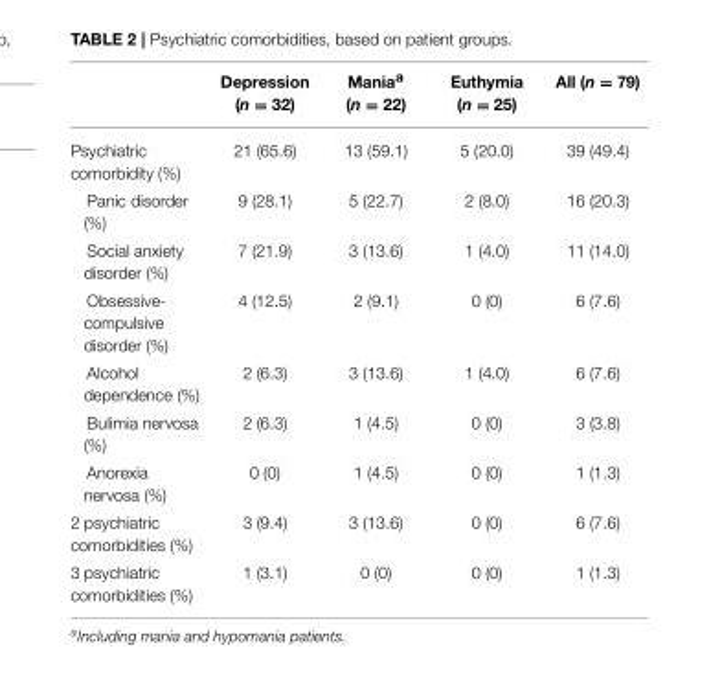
<table><thead><tr><td></td><td>Depression (n = 32)</td><td>Mania<sup>a</sup> (n = 22)</td><td>Euthymia (n = 25)</td><td>All (n = 79)</td></tr></thead><tbody><tr><td>Psychiatric comorbidity (%)</td><td>21 (65.6)</td><td>13 (59.1)</td><td>5 (20.0)</td><td>39 (49.4)</td></tr><tr><td>Panic disorder (%)</td><td>9 (28.1)</td><td>5 (22.7)</td><td>2 (8.0)</td><td>16 (20.3)</td></tr><tr><td>Social anxiety disorder (%)</td><td>7 (21.9)</td><td>3 (13.6)</td><td>1 (4.0)</td><td>11 (14.0)</td></tr><tr><td>Obsessive- compulsive disorder (%)</td><td>4 (12.5)</td><td>2 (9.1)</td><td>0 (0)</td><td>6 (7.6)</td></tr><tr><td>Alcohol dependence (%)</td><td>2 (6.3)</td><td>3 (13.6)</td><td>1 (4.0)</td><td>6 (7.6)</td></tr><tr><td>Bulimia nervosa (%)</td><td>2 (6.3)</td><td>1 (4.5)</td><td>0 (0)</td><td>3 (3.8)</td></tr><tr><td>Anorexia nervosa (%)</td><td>0 (0)</td><td>1 (4.5)</td><td>0 (0)</td><td>1 (1.3)</td></tr><tr><td>2 psychiatric comorbidities (%)</td><td>3 (9.4)</td><td>3 (13.6)</td><td>0 (0)</td><td>6 (7.6)</td></tr><tr><td>3 psychiatric comorbidities (%)</td><td>1 (3.1)</td><td>0 (0)</td><td>0 (0)</td><td>1 (1.3)</td></tr></tbody></table>